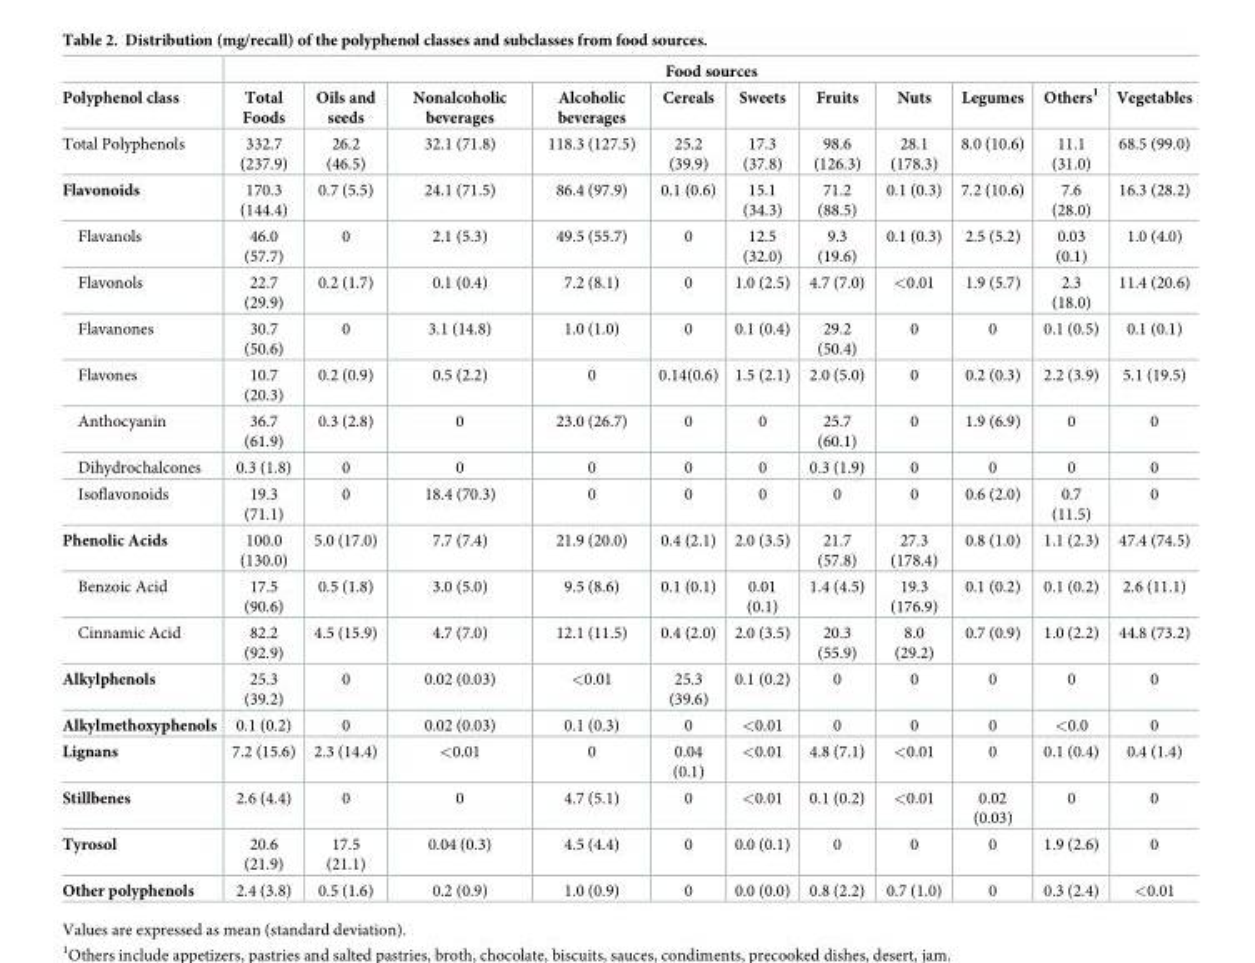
<table><thead><tr><td rowspan="2">Polyphenol class</td><td colspan="11">Food sources</td></tr><tr><td>Total Foods</td><td>Oils and seeds</td><td>Nonalcoholic beverages</td><td>Alcoholic beverages</td><td>Cereals</td><td>Sweets</td><td>Fruits</td><td>Nuts</td><td>Legumes</td><td>Others<sup>1</sup></td><td>Vegetables</td></tr></thead><tbody><tr><td>Total Polyphenols</td><td>332.7 (237.9)</td><td>26.2 (46.5)</td><td>32.1 (71.8)</td><td>118.3 (127.5)</td><td>25.2 (39.9)</td><td>17.3 (37.8)</td><td>98.6 (126.3)</td><td>28.1 (178.3)</td><td>8.0 (10.6)</td><td>11.1 (31.0)</td><td>68.5 (99.0)</td></tr><tr><td>Flavonoids</td><td>170.3 (144.4)</td><td>0.7 (5.5)</td><td>24.1 (71.5)</td><td>86.4 (97.9)</td><td>0.1 (0.6)</td><td>15.1 (34.3)</td><td>71.2 (88.5)</td><td>0.1 (0.3)</td><td>7.2 (10.6)</td><td>7.6 (28.0)</td><td>16.3 (28.2)</td></tr><tr><td>Flavanols</td><td>46.0 (57.7)</td><td>0</td><td>2.1 (5.3)</td><td>49.5 (55.7)</td><td>0</td><td>12.5 (32.0)</td><td>9.3 (19.6)</td><td>0.1 (0.3)</td><td>2.5 (5.2)</td><td>0.03 (0.1)</td><td>1.0 (4.0)</td></tr><tr><td>Flavonols</td><td>22.7 (29.9)</td><td>0.2 (1.7)</td><td>0.1 (0.4)</td><td>7.2 (8.1)</td><td>0</td><td>1.0 (2.5)</td><td>4.7 (7.0)</td><td>&lt;0.01</td><td>1.9 (5.7)</td><td>2.3 (18.0)</td><td>11.4 (20.6)</td></tr><tr><td>Flavanones</td><td>30.7 (50.6)</td><td>0</td><td>3.1 (14.8)</td><td>1.0 (1.0)</td><td>0</td><td>0.1 (0.4)</td><td>29.2 (50.4)</td><td>0</td><td>0</td><td>0.1 (0.5)</td><td>0.1 (0.1)</td></tr><tr><td>Flavones</td><td>10.7 (20.3)</td><td>0.2 (0.9)</td><td>0.5 (2.2)</td><td>0</td><td>0.14(0.6)</td><td>1.5 (2.1)</td><td>2.0 (5.0)</td><td>0</td><td>0.2 (0.3)</td><td>2.2 (3.9)</td><td>5.1 (19.5)</td></tr><tr><td>Anthocyanin</td><td>36.7 (61.9)</td><td>0.3 (2.8)</td><td>0</td><td>23.0 (26.7)</td><td>0</td><td>0</td><td>25.7 (60.1)</td><td>0</td><td>1.9 (6.9)</td><td>0</td><td>0</td></tr><tr><td>Dihydrochalcones</td><td>0.3 (1.8)</td><td>0</td><td>0</td><td>0</td><td>0</td><td>0</td><td>0.3 (1.9)</td><td>0</td><td>0</td><td>0</td><td>0</td></tr><tr><td>Isoflavonoids</td><td>19.3 (71.1)</td><td>0</td><td>18.4 (70.3)</td><td>0</td><td>0</td><td>0</td><td>0</td><td>0</td><td>0.6 (2.0)</td><td>0.7 (11.5)</td><td>0</td></tr><tr><td>Phenolic Acids</td><td>100.0 (130.0)</td><td>5.0 (17.0)</td><td>7.7 (7.4)</td><td>21.9 (20.0)</td><td>0.4 (2.1)</td><td>2.0 (3.5)</td><td>21.7 (57.8)</td><td>27.3 (178.4)</td><td>0.8 (1.0)</td><td>1.1 (2.3)</td><td>47.4 (74.5)</td></tr><tr><td>Benzoic Acid</td><td>17.5 (90.6)</td><td>0.5 (1.8)</td><td>3.0 (5.0)</td><td>9.5 (8.6)</td><td>0.1 (0.1)</td><td>0.01 (0.1)</td><td>1.4 (4.5)</td><td>19.3 (176.9)</td><td>0.1 (0.2)</td><td>0.1 (0.2)</td><td>2.6 (11.1)</td></tr><tr><td>Cinnamic Acid</td><td>82.2 (92.9)</td><td>4.5 (15.9)</td><td>4.7 (7.0)</td><td>12.1 (11.5)</td><td>0.4 (2.0)</td><td>2.0 (3.5)</td><td>20.3 (55.9)</td><td>8.0 (29.2)</td><td>0.7 (0.9)</td><td>1.0 (2.2)</td><td>44.8 (73.2)</td></tr><tr><td>Alkylphenols</td><td>25.3 (39.2)</td><td>0</td><td>0.02 (0.03)</td><td>&lt;0.01</td><td>25.3 (39.6)</td><td>0.1 (0.2)</td><td>0</td><td>0</td><td>0</td><td>0</td><td>0</td></tr><tr><td>Alkylmethoxyphenols</td><td>0.1 (0.2)</td><td>0</td><td>0.02 (0.03)</td><td>0.1 (0.3)</td><td>0</td><td>&lt;0.01</td><td>0</td><td>0</td><td>0</td><td>&lt;0.0</td><td>0</td></tr><tr><td>Lignans</td><td>7.2 (15.6)</td><td>2.3 (14.4)</td><td>&lt;0.01</td><td>0</td><td>0.04 (0.1)</td><td>&lt;0.01</td><td>4.8 (7.1)</td><td>&lt;0.01</td><td>0</td><td>0.1 (0.4)</td><td>0.4 (1.4)</td></tr><tr><td>Stillbenes</td><td>2.6 (4.4)</td><td>0</td><td>0</td><td>4.7 (5.1)</td><td>0</td><td>&lt;0.01</td><td>0.1 (0.2)</td><td>&lt;0.01</td><td>0.02 (0.03)</td><td>0</td><td>0</td></tr><tr><td>Tyrosol</td><td>20.6 (21.9)</td><td>17.5 (21.1)</td><td>0.04 (0.3)</td><td>4.5 (4.4)</td><td>0</td><td>0.0 (0.1)</td><td>0</td><td>0</td><td>0</td><td>1.9 (2.6)</td><td>0</td></tr><tr><td>Other polyphenols</td><td>2.4 (3.8)</td><td>0.5 (1.6)</td><td>0.2 (0.9)</td><td>1.0 (0.9)</td><td>0</td><td>0.0 (0.0)</td><td>0.8 (2.2)</td><td>0.7 (1.0)</td><td>0</td><td>0.3 (2.4)</td><td>&lt;0.01</td></tr></tbody></table>